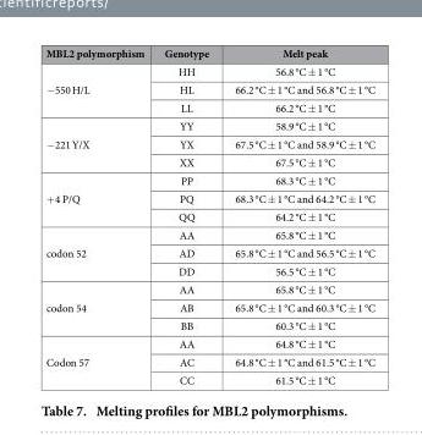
<table><thead><tr><td>MBL2 polymorphism</td><td>Genotype</td><td>Melt peak</td></tr></thead><tbody><tr><td rowspan="3">− 550 H/L</td><td>HH</td><td>56.8 °C ± 1 °C</td></tr><tr><td>HL</td><td>66.2 °C ± 1 °C and 56.8 °C ± 1 °C</td></tr><tr><td>LL</td><td>66.2 °C ± 1 °C</td></tr><tr><td rowspan="3">− 221 Y/X</td><td>YY</td><td>58.9 °C ± 1 °C</td></tr><tr><td>YX</td><td>67.5 °C ± 1 °C and 58.9 °C ± 1 °C</td></tr><tr><td>XX</td><td>67.5 °C ± 1 °C</td></tr><tr><td rowspan="3">+ 4 P/Q</td><td>PP</td><td>68.3 °C ± 1 °C</td></tr><tr><td>PQ</td><td>68.3 °C ± 1 °C and 64.2 °C ± 1 °C</td></tr><tr><td>QQ</td><td>64.2 °C ± 1 °C</td></tr><tr><td rowspan="3">codon 52</td><td>AA</td><td>65.8 °C ± 1 °C</td></tr><tr><td>AD</td><td>65.8 °C ± 1 °C and 56.5 °C ± 1 °C</td></tr><tr><td>DD</td><td>56.5 °C ± 1 °C</td></tr><tr><td rowspan="3">codon 54</td><td>AA</td><td>65.8 °C ± 1 °C</td></tr><tr><td>AB</td><td>65.8 °C ± 1 °C and 60.3 °C ± 1 °C</td></tr><tr><td>BB</td><td>60.3 °C ± 1 °C</td></tr><tr><td rowspan="3">Codon 57</td><td>AA</td><td>64.8 °C ± 1 °C</td></tr><tr><td>AC</td><td>64.8 °C ± 1 °C and 61.5 °C ± 1 °C</td></tr><tr><td>CC</td><td>61.5 °C ± 1 °C</td></tr></tbody></table>